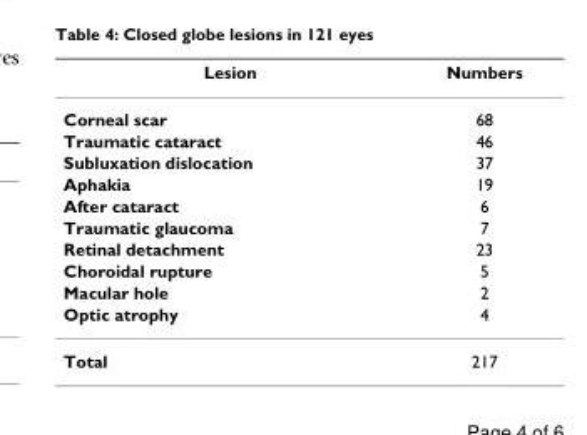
<table><thead><tr><td>Lesion</td><td>Numbers</td></tr></thead><tbody><tr><td>Corneal scar</td><td>68</td></tr><tr><td>Traumatic cataract</td><td>46</td></tr><tr><td>Subluxation dislocation</td><td>37</td></tr><tr><td>Aphakia</td><td>19</td></tr><tr><td>After cataract</td><td>6</td></tr><tr><td>Traumatic glaucoma</td><td>7</td></tr><tr><td>Retinal detachment</td><td>23</td></tr><tr><td>Choroidal rupture</td><td>5</td></tr><tr><td>Macular hole</td><td>2</td></tr><tr><td>Optic atrophy</td><td>4</td></tr><tr><td>Total</td><td>217</td></tr></tbody></table>